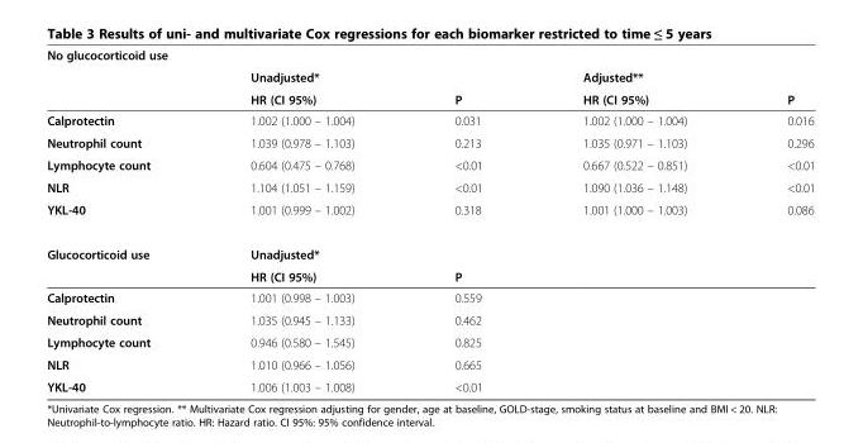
<table><tbody><tr><td colspan="5">No glucocorticoid use</td></tr><tr><td></td><td colspan="2">Unadjusted*</td><td colspan="2">Adjusted**</td></tr><tr><td></td><td>HR (CI 95%)</td><td>P</td><td>HR (CI 95%)</td><td>P</td></tr><tr><td>Calprotectin</td><td>1.002 (1.000 – 1.004)</td><td>0.031</td><td>1.002 (1.000 – 1.004)</td><td>0.016</td></tr><tr><td>Neutrophil count</td><td>1.039 (0.978 – 1.103)</td><td>0.213</td><td>1.035 (0.971 – 1.103)</td><td>0.296</td></tr><tr><td>Lymphocyte count</td><td>0.604 (0.475 – 0.768)</td><td>&lt;0.01</td><td>0.667 (0.522 – 0.851)</td><td>&lt;0.01</td></tr><tr><td>NLR</td><td>1.104 (1.051 – 1.159)</td><td>&lt;0.01</td><td>1.090 (1.036 – 1.148)</td><td>&lt;0.01</td></tr><tr><td>YKL-40</td><td>1.001 (0.999 – 1.002)</td><td>0.318</td><td>1.001 (1.000 – 1.003)</td><td>0.086</td></tr><tr><td rowspan="2">Glucocorticoid use</td><td colspan="2">Unadjusted*</td><td colspan="2"></td></tr><tr><td>HR (CI 95%)</td><td>P</td><td></td><td></td></tr><tr><td>Calprotectin</td><td>1.001 (0.998 – 1.003)</td><td>0.559</td><td></td><td></td></tr><tr><td>Neutrophil count</td><td>1.035 (0.945 – 1.133)</td><td>0.462</td><td></td><td></td></tr><tr><td>Lymphocyte count</td><td>0.946 (0.580 – 1.545)</td><td>0.825</td><td></td><td></td></tr><tr><td>NLR</td><td>1.010 (0.966 – 1.056)</td><td>0.665</td><td></td><td></td></tr><tr><td>YKL-40</td><td>1.006 (1.003 – 1.008)</td><td>&lt;0.01</td><td></td><td></td></tr></tbody></table>